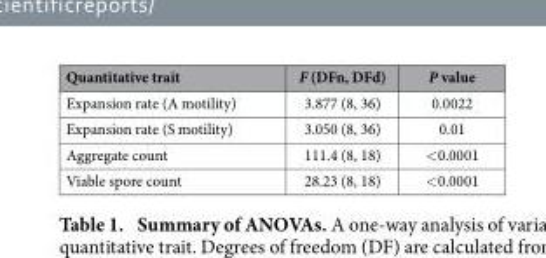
<table><thead><tr><td>Quantitative trait</td><td>F (DFn, DFd)</td><td>P value</td></tr></thead><tbody><tr><td>Expansion rate (A motility)</td><td>3.877 (8, 36)</td><td>0.0022</td></tr><tr><td>Expansion rate (S motility)</td><td>3.050 (8, 36)</td><td>0.01</td></tr><tr><td>Aggregate count</td><td>111.4 (8, 18)</td><td>&lt; 0.0001</td></tr><tr><td>Viable spore count</td><td>28.23 (8, 18)</td><td>&lt; 0.0001</td></tr></tbody></table>